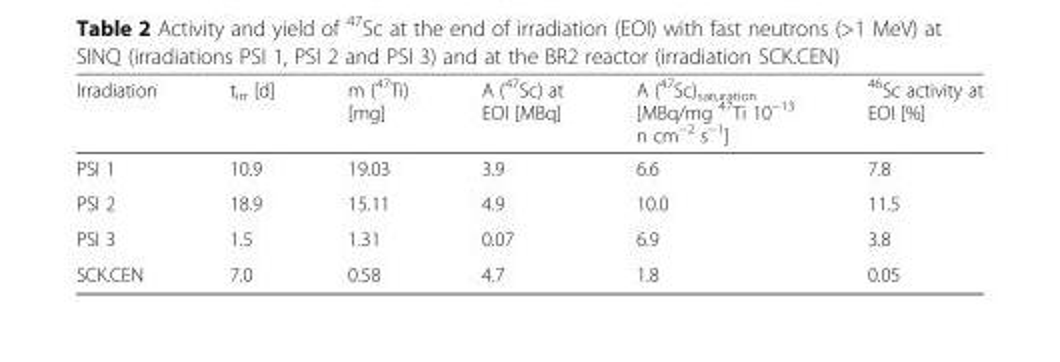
<table><thead><tr><td>Irradiation</td><td>t<sub>irr</sub> [d]</td><td>m (<sup>47</sup>Ti) [mg]</td><td>A (<sup>47</sup>Sc) at EOI [MBq]</td><td>A (<sup>47</sup>Sc)<sub>saturation</sub> [MBq/mg <sup>47</sup>Ti 10<sup>−13</sup> n cm<sup>−2</sup> s<sup>−1</sup>]</td><td><sup>46</sup>Sc activity at EOI [%]</td></tr></thead><tbody><tr><td>PSI 1</td><td>10.9</td><td>19.03</td><td>3.9</td><td>6.6</td><td>7.8</td></tr><tr><td>PSI 2</td><td>18.9</td><td>15.11</td><td>4.9</td><td>10.0</td><td>11.5</td></tr><tr><td>PSI 3</td><td>1.5</td><td>1.31</td><td>0.07</td><td>6.9</td><td>3.8</td></tr><tr><td>SCK.CEN</td><td>7.0</td><td>0.58</td><td>4.7</td><td>1.8</td><td>0.05</td></tr></tbody></table>